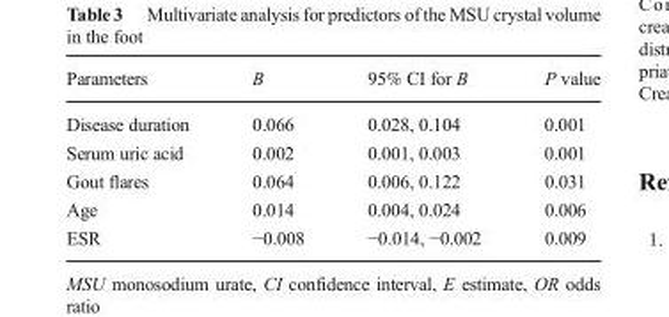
<table><thead><tr><td>Parameters</td><td>B</td><td>95% CI for B</td><td>P value</td></tr></thead><tbody><tr><td>Disease duration</td><td>0.066</td><td>0.028, 0.104</td><td>0.001</td></tr><tr><td>Serum uric acid</td><td>0.002</td><td>0.001, 0.003</td><td>0.001</td></tr><tr><td>Gout flares</td><td>0.064</td><td>0.006, 0.122</td><td>0.031</td></tr><tr><td>Age</td><td>0.014</td><td>0.004, 0.024</td><td>0.006</td></tr><tr><td>ESR</td><td>−0.008</td><td>−0.014, −0.002</td><td>0.009</td></tr></tbody></table>